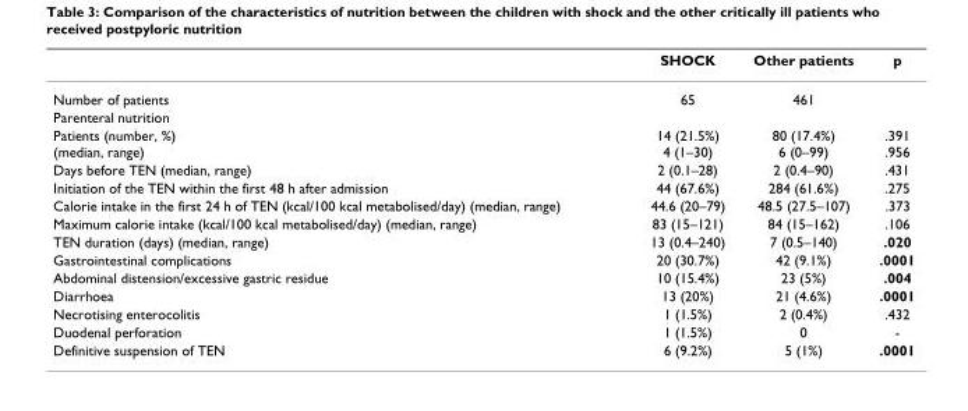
<table><thead><tr><td></td><td>SHOCK</td><td>Other patients</td><td>p</td></tr></thead><tbody><tr><td>Number of patients</td><td>65</td><td>461</td><td></td></tr><tr><td colspan="4">Parenteral nutrition</td></tr><tr><td>Patients (number, %) (median, range)</td><td>14 (21.5%) 4 (1–30)</td><td>80 (17.4%) 6 (0–99)</td><td>.391 .956</td></tr><tr><td>Days before TEN (median, range)</td><td>2 (0.1–28)</td><td>2 (0.4–90)</td><td>.431</td></tr><tr><td>Initiation of the TEN within the first 48 h after admission</td><td>44 (67.6%)</td><td>284 (61.6%)</td><td>.275</td></tr><tr><td>Calorie intake in the first 24 h of TEN (kcal/100 kcal metabolised/day) (median, range)</td><td>44.6 (20–79)</td><td>48.5 (27.5–107)</td><td>.373</td></tr><tr><td>Maximum calorie intake (kcal/100 kcal metabolised/day) (median, range)</td><td>83 (15–121)</td><td>84 (15–162)</td><td>.106</td></tr><tr><td>TEN duration (days) (median, range)</td><td>13 (0.4–240)</td><td>7 (0.5–140)</td><td>.020</td></tr><tr><td>Gastrointestinal complications</td><td>20 (30.7%)</td><td>42 (9.1%)</td><td>.0001</td></tr><tr><td>Abdominal distension/excessive gastric residue</td><td>10 (15.4%)</td><td>23 (5%)</td><td>.004</td></tr><tr><td>Diarrhoea</td><td>13 (20%)</td><td>21 (4.6%)</td><td>.0001</td></tr><tr><td>Necrotising enterocolitis</td><td>1 (1.5%)</td><td>2 (0.4%)</td><td>.432</td></tr><tr><td>Duodenal perforation</td><td>1 (1.5%)</td><td>0</td><td>-</td></tr><tr><td>Definitive suspension of TEN</td><td>6 (9.2%)</td><td>5 (1%)</td><td>.0001</td></tr></tbody></table>